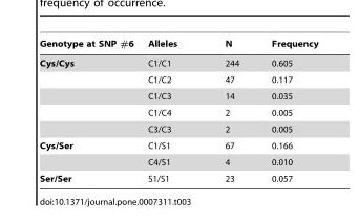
<table><thead><tr><td>Genotype at SNP #6</td><td>Alleles</td><td>N</td><td>Frequency</td></tr></thead><tbody><tr><td rowspan="5">Cys/Cys</td><td>C1/C1</td><td>244</td><td>0.605</td></tr><tr><td>C1/C2</td><td>47</td><td>0.117</td></tr><tr><td>C1/C3</td><td>14</td><td>0.035</td></tr><tr><td>C1/C4</td><td>2</td><td>0.005</td></tr><tr><td>C3/C3</td><td>2</td><td>0.005</td></tr><tr><td rowspan="2">Cys/Ser</td><td>C1/S1</td><td>67</td><td>0.166</td></tr><tr><td>C4/S1</td><td>4</td><td>0.010</td></tr><tr><td>Ser/Ser</td><td>S1/S1</td><td>23</td><td>0.057</td></tr></tbody></table>